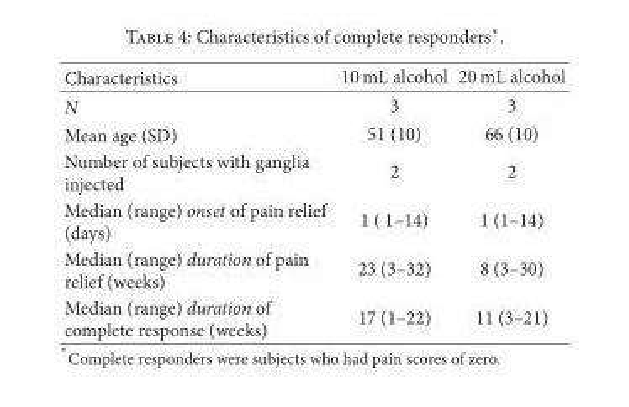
<table><thead><tr><td>Characteristics</td><td>10 mL alcohol</td><td>20 mL alcohol</td></tr></thead><tbody><tr><td>N</td><td>3</td><td>3</td></tr><tr><td>Mean age (SD)</td><td>51 (10)</td><td>66 (10)</td></tr><tr><td>Number of subjects with ganglia injected</td><td>2</td><td>2</td></tr><tr><td>Median (range) onset of pain relief (days)</td><td>1 ( 1–14)</td><td>1 (1–14)</td></tr><tr><td>Median (range) duration of pain relief (weeks)</td><td>23 (3–32)</td><td>8 (3–30)</td></tr><tr><td>Median (range) duration of complete response (weeks)</td><td>17 (1–22)</td><td>11 (3–21)</td></tr></tbody></table>